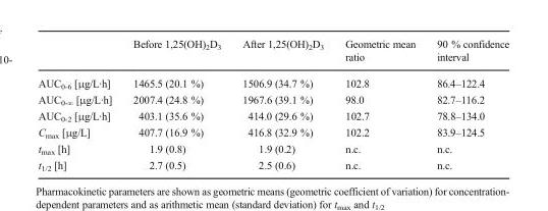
<table><thead><tr><td></td><td>Before 1,25(OH)<sub>2</sub>D<sub>3</sub></td><td>After 1,25(OH)<sub>2</sub>D<sub>3</sub></td><td>Geometric mean ratio</td><td>90 % confidence interval</td></tr></thead><tbody><tr><td>AUC<sub>0-6</sub> [μg/L·h]</td><td>1465.5 (20.1 %)</td><td>1506.9 (34.7 %)</td><td>102.8</td><td>86.4–122.4</td></tr><tr><td>AUC<sub>0-∞</sub> [μg/L·h]</td><td>2007.4 (24.8 %)</td><td>1967.6 (39.1 %)</td><td>98.0</td><td>82.7–116.2</td></tr><tr><td>AUC<sub>0-2</sub> [μg/L·h]</td><td>403.1 (35.6 %)</td><td>414.0 (29.6 %)</td><td>102.7</td><td>78.8–134.0</td></tr><tr><td>C<sub>max</sub> [μg/L]</td><td>407.7 (16.9 %)</td><td>416.8 (32.9 %)</td><td>102.2</td><td>83.9–124.5</td></tr><tr><td>t<sub>max</sub> [h]</td><td>1.9 (0.8)</td><td>1.9 (0.2)</td><td>n.c.</td><td>n.c.</td></tr><tr><td>t<sub>1/2</sub> [h]</td><td>2.7 (0.5)</td><td>2.5 (0.6)</td><td>n.c.</td><td>n.c.</td></tr></tbody></table>